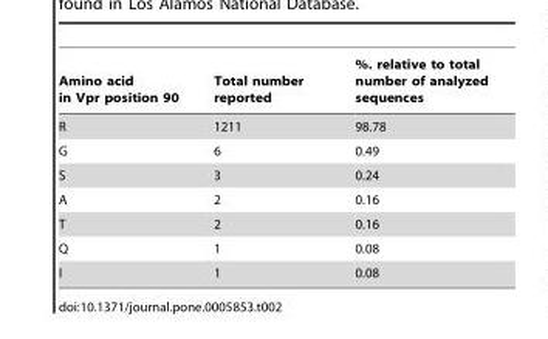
<table><thead><tr><td>Amino acid in Vpr position 90</td><td>Total number reported</td><td>%. relative to total number of analyzed sequences</td></tr></thead><tbody><tr><td>R</td><td>1211</td><td>98.78</td></tr><tr><td>G</td><td>6</td><td>0.49</td></tr><tr><td>S</td><td>3</td><td>0.24</td></tr><tr><td>A</td><td>2</td><td>0.16</td></tr><tr><td>T</td><td>2</td><td>0.16</td></tr><tr><td>Q</td><td>1</td><td>0.08</td></tr><tr><td>I</td><td>1</td><td>0.08</td></tr></tbody></table>